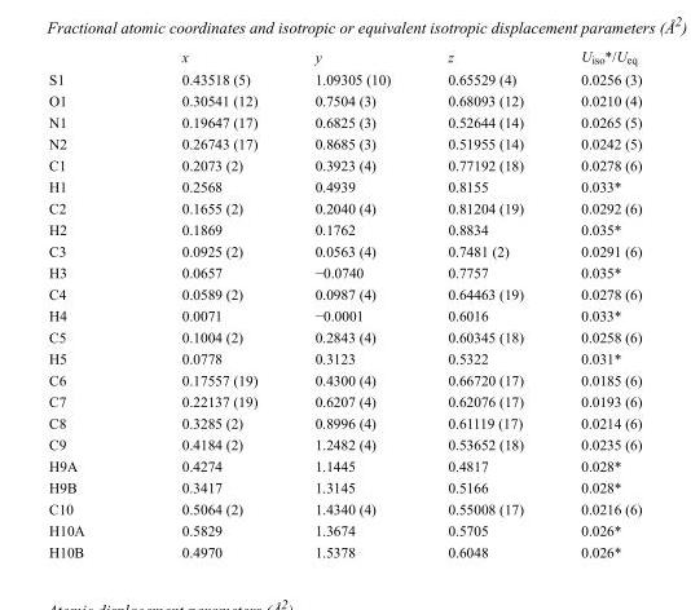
<table><thead><tr><td></td><td>x</td><td>y</td><td>z</td><td>U<sub>iso</sub>*/U<sub>eq</sub></td></tr></thead><tbody><tr><td>S1</td><td>0.43518 (5)</td><td>1.09305 (10)</td><td>0.65529 (4)</td><td>0.0256 (3)</td></tr><tr><td>O1</td><td>0.30541 (12)</td><td>0.7504 (3)</td><td>0.68093 (12)</td><td>0.0210 (4)</td></tr><tr><td>N1</td><td>0.19647 (17)</td><td>0.6825 (3)</td><td>0.52644 (14)</td><td>0.0265 (5)</td></tr><tr><td>N2</td><td>0.26743 (17)</td><td>0.8685 (3)</td><td>0.51955 (14)</td><td>0.0242 (5)</td></tr><tr><td>C1</td><td>0.2073 (2)</td><td>0.3923 (4)</td><td>0.77192 (18)</td><td>0.0278 (6)</td></tr><tr><td>H1</td><td>0.2568</td><td>0.4939</td><td>0.8155</td><td>0.033*</td></tr><tr><td>C2</td><td>0.1655 (2)</td><td>0.2040 (4)</td><td>0.81204 (19)</td><td>0.0292 (6)</td></tr><tr><td>H2</td><td>0.1869</td><td>0.1762</td><td>0.8834</td><td>0.035*</td></tr><tr><td>C3</td><td>0.0925 (2)</td><td>0.0563 (4)</td><td>0.7481 (2)</td><td>0.0291 (6)</td></tr><tr><td>H3</td><td>0.0657</td><td>−0.0740</td><td>0.7757</td><td>0.035*</td></tr><tr><td>C4</td><td>0.0589 (2)</td><td>0.0987 (4)</td><td>0.64463 (19)</td><td>0.0278 (6)</td></tr><tr><td>H4</td><td>0.0071</td><td>−0.0001</td><td>0.6016</td><td>0.033*</td></tr><tr><td>C5</td><td>0.1004 (2)</td><td>0.2843 (4)</td><td>0.60345 (18)</td><td>0.0258 (6)</td></tr><tr><td>H5</td><td>0.0778</td><td>0.3123</td><td>0.5322</td><td>0.031*</td></tr><tr><td>C6</td><td>0.17557 (19)</td><td>0.4300 (4)</td><td>0.66720 (17)</td><td>0.0185 (6)</td></tr><tr><td>C7</td><td>0.22137 (19)</td><td>0.6207 (4)</td><td>0.62076 (17)</td><td>0.0193 (6)</td></tr><tr><td>C8</td><td>0.3285 (2)</td><td>0.8996 (4)</td><td>0.61119 (17)</td><td>0.0214 (6)</td></tr><tr><td>C9</td><td>0.4184 (2)</td><td>1.2482 (4)</td><td>0.53652 (18)</td><td>0.0235 (6)</td></tr><tr><td>H9A</td><td>0.4274</td><td>1.1445</td><td>0.4817</td><td>0.028*</td></tr><tr><td>H9B</td><td>0.3417</td><td>1.3145</td><td>0.5166</td><td>0.028*</td></tr><tr><td>C10</td><td>0.5064 (2)</td><td>1.4340 (4)</td><td>0.55008 (17)</td><td>0.0216 (6)</td></tr><tr><td>H10A</td><td>0.5829</td><td>1.3674</td><td>0.5705</td><td>0.026*</td></tr><tr><td>H10B</td><td>0.4970</td><td>1.5378</td><td>0.6048</td><td>0.026*</td></tr></tbody></table>